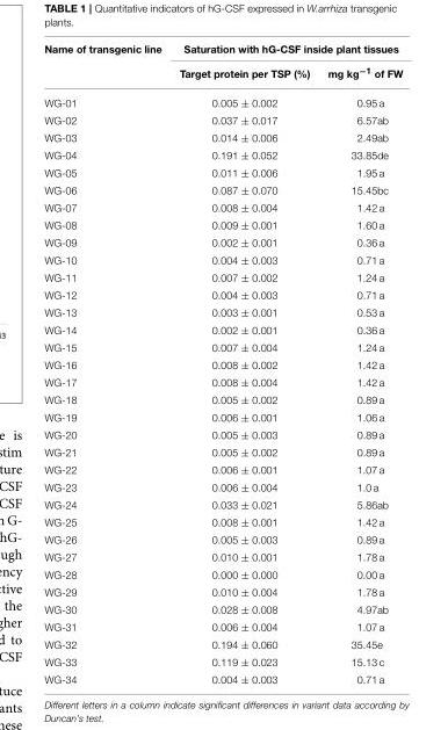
<table><thead><tr><td rowspan="2">Name of transgenic line</td><td colspan="2">Saturation with hG-CSF inside plant tissues</td></tr><tr><td>Target protein per TSP (%)</td><td>mg kg<sup>−1</sup> of FW</td></tr></thead><tbody><tr><td>WG-01</td><td>0.005 ± 0.002</td><td>0.95 a</td></tr><tr><td>WG-02</td><td>0.037 ± 0.017</td><td>6.57ab</td></tr><tr><td>WG-03</td><td>0.014 ± 0.006</td><td>2.49ab</td></tr><tr><td>WG-04</td><td>0.191 ± 0.052</td><td>33.85de</td></tr><tr><td>WG-05</td><td>0.011 ± 0.006</td><td>1.95 a</td></tr><tr><td>WG-06</td><td>0.087 ± 0.070</td><td>15.45bc</td></tr><tr><td>WG-07</td><td>0.008 ± 0.004</td><td>1.42 a</td></tr><tr><td>WG-08</td><td>0.009 ± 0.001</td><td>1.60 a</td></tr><tr><td>WG-09</td><td>0.002 ± 0.001</td><td>0.36 a</td></tr><tr><td>WG-10</td><td>0.004 ± 0.003</td><td>0.71 a</td></tr><tr><td>WG-11</td><td>0.007 ± 0.002</td><td>1.24 a</td></tr><tr><td>WG-12</td><td>0.004 ± 0.003</td><td>0.71 a</td></tr><tr><td>WG-13</td><td>0.003 ± 0.001</td><td>0.53 a</td></tr><tr><td>WG-14</td><td>0.002 ± 0.001</td><td>0.36 a</td></tr><tr><td>WG-15</td><td>0.007 ± 0.004</td><td>1.24 a</td></tr><tr><td>WG-16</td><td>0.008 ± 0.002</td><td>1.42 a</td></tr><tr><td>WG-17</td><td>0.008 ± 0.004</td><td>1.42 a</td></tr><tr><td>WG-18</td><td>0.005 ± 0.002</td><td>0.89 a</td></tr><tr><td>WG-19</td><td>0.006 ± 0.001</td><td>1.06 a</td></tr><tr><td>WG-20</td><td>0.005 ± 0.003</td><td>0.89 a</td></tr><tr><td>WG-21</td><td>0.005 ± 0.002</td><td>0.89 a</td></tr><tr><td>WG-22</td><td>0.006 ± 0.001</td><td>1.07 a</td></tr><tr><td>WG-23</td><td>0.006 ± 0.004</td><td>1.0 a</td></tr><tr><td>WG-24</td><td>0.033 ± 0.021</td><td>5.86ab</td></tr><tr><td>WG-25</td><td>0.008 ± 0.001</td><td>1.42 a</td></tr><tr><td>WG-26</td><td>0.005 ± 0.003</td><td>0.89 a</td></tr><tr><td>WG-27</td><td>0.010 ± 0.001</td><td>1.78 a</td></tr><tr><td>WG-28</td><td>0.000 ± 0.000</td><td>0.00 a</td></tr><tr><td>WG-29</td><td>0.010 ± 0.004</td><td>1.78 a</td></tr><tr><td>WG-30</td><td>0.028 ± 0.008</td><td>4.97ab</td></tr><tr><td>WG-31</td><td>0.006 ± 0.004</td><td>1.07 a</td></tr><tr><td>WG-32</td><td>0.194 ± 0.060</td><td>35.45e</td></tr><tr><td>WG-33</td><td>0.119 ± 0.023</td><td>15.13 c</td></tr><tr><td>WG-34</td><td>0.004 ± 0.003</td><td>0.71 a</td></tr></tbody></table>